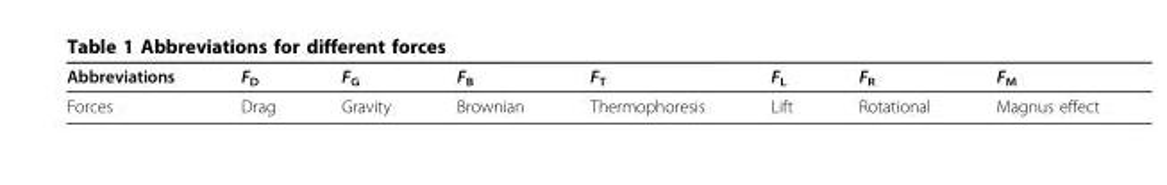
<table><thead><tr><td>Abbreviations</td><td>F<sub>D</sub></td><td>F<sub>G</sub></td><td>F<sub>B</sub></td><td>F<sub>T</sub></td><td>F<sub>L</sub></td><td>F<sub>R</sub></td><td>F<sub>M</sub></td></tr></thead><tbody><tr><td>Forces</td><td>Drag</td><td>Gravity</td><td>Brownian</td><td>Thermophoresis</td><td>Lift</td><td>Rotational</td><td>Magnus effect</td></tr></tbody></table>